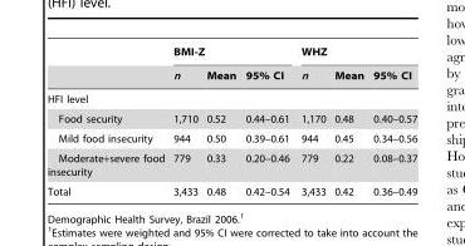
<table><thead><tr><td rowspan="2"></td><td colspan="3">BMI-Z</td><td colspan="3">WHZ</td></tr><tr><td>n</td><td>Mean</td><td>95% CI</td><td>n</td><td>Mean</td><td>95% CI</td></tr></thead><tbody><tr><td colspan="7">HFI level</td></tr><tr><td>Food security</td><td>1,710</td><td>0.52</td><td>0.44–0.61</td><td>1,170</td><td>0.48</td><td>0.40–0.57</td></tr><tr><td>Mild food insecurity</td><td>944</td><td>0.50</td><td>0.39–0.61</td><td>944</td><td>0.45</td><td>0.34–0.56</td></tr><tr><td>Moderate+severe food insecurity</td><td>779</td><td>0.33</td><td>0.20–0.46</td><td>779</td><td>0.22</td><td>0.08–0.37</td></tr><tr><td>Total</td><td>3,433</td><td>0.48</td><td>0.42–0.54</td><td>3,433</td><td>0.42</td><td>0.36–0.49</td></tr></tbody></table>